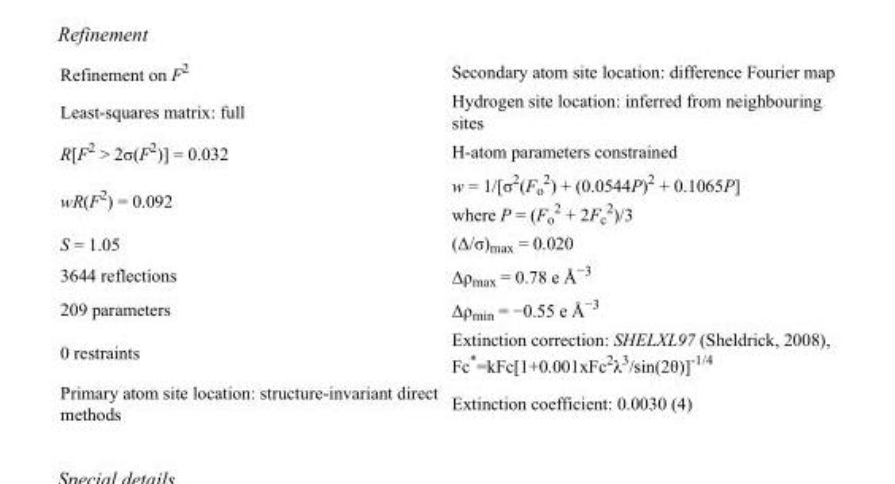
<table><tbody><tr><td>Refinement on F<sup>2</sup></td><td>Secondary atom site location: difference Fourier map</td></tr><tr><td>Least-squares matrix: full</td><td>Hydrogen site location: inferred from neighbouring sites</td></tr><tr><td>R[F<sup>2</sup> &gt; 2σ(F<sup>2</sup>)] = 0.032</td><td>H-atom parameters constrained</td></tr><tr><td>wR(F<sup>2</sup>) = 0.092</td><td>w = 1/[σ<sup>2</sup>(F<sub>o</sub> <sup>2</sup>) + (0.0544P)<sup>2</sup> + 0.1065P] where P = (F<sub>o</sub> <sup>2</sup> + 2F<sub>c</sub> <sup>2</sup>)/3</td></tr><tr><td>S = 1.05</td><td>(Δ/σ)<sub>max</sub> = 0.020</td></tr><tr><td>3644 reflections</td><td>Δρ<sub>max</sub> = 0.78 e Å<sup>−3</sup></td></tr><tr><td>209 parameters</td><td>Δρ<sub>min</sub> = −0.55 e Å<sup>−3</sup></td></tr><tr><td>0 restraints</td><td>Extinction correction: SHELXL97 (Sheldrick, 2008), Fc*=kFc[1+0.001xFc<sup>2</sup>λ<sup>3</sup>/sin(2θ)]<sup>-1/4</sup></td></tr><tr><td>Primary atom site location: structure-invariant direct methods</td><td>Extinction coefficient: 0.0030 (4)</td></tr></tbody></table>